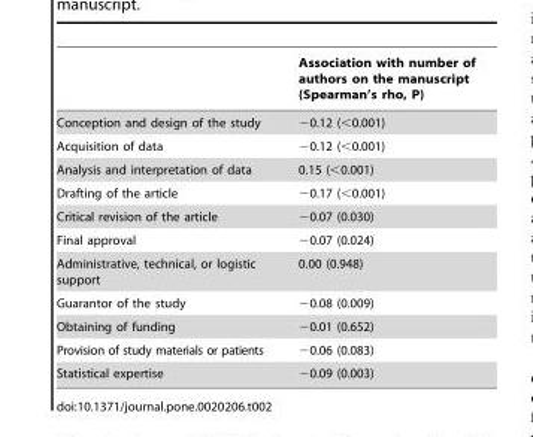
<table><thead><tr><td></td><td>Association with number of authors on the manuscript (Spearman’s rho, P)</td></tr></thead><tbody><tr><td>Conception and design of the study</td><td>−0.12 (&lt;0.001)</td></tr><tr><td>Acquisition of data</td><td>−0.12 (&lt;0.001)</td></tr><tr><td>Analysis and interpretation of data</td><td>0.15 (&lt;0.001)</td></tr><tr><td>Drafting of the article</td><td>−0.17 (&lt;0.001)</td></tr><tr><td>Critical revision of the article</td><td>−0.07 (0.030)</td></tr><tr><td>Final approval</td><td>−0.07 (0.024)</td></tr><tr><td>Administrative, technical, or logistic support</td><td>0.00 (0.948)</td></tr><tr><td>Guarantor of the study</td><td>−0.08 (0.009)</td></tr><tr><td>Obtaining of funding</td><td>−0.01 (0.652)</td></tr><tr><td>Provision of study materials or patients</td><td>−0.06 (0.083)</td></tr><tr><td>Statistical expertise</td><td>−0.09 (0.003)</td></tr></tbody></table>